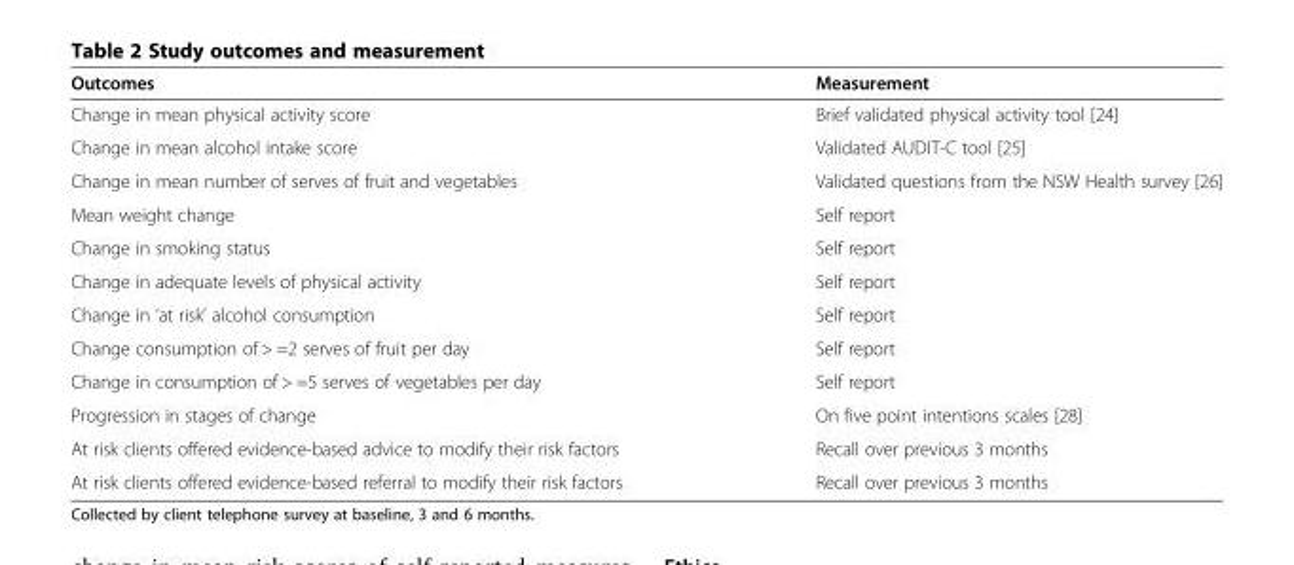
<table><thead><tr><td>Outcomes</td><td>Measurement</td></tr></thead><tbody><tr><td>Change in mean physical activity score</td><td>Brief validated physical activity tool [24]</td></tr><tr><td>Change in mean alcohol intake score</td><td>Validated AUDIT-C tool [25]</td></tr><tr><td>Change in mean number of serves of fruit and vegetables</td><td>Validated questions from the NSW Health survey [26]</td></tr><tr><td>Mean weight change</td><td>Self report</td></tr><tr><td>Change in smoking status</td><td>Self report</td></tr><tr><td>Change in adequate levels of physical activity</td><td>Self report</td></tr><tr><td>Change in ‘at risk’ alcohol consumption</td><td>Self report</td></tr><tr><td>Change consumption of &gt; =2 serves of fruit per day</td><td>Self report</td></tr><tr><td>Change in consumption of &gt; =5 serves of vegetables per day</td><td>Self report</td></tr><tr><td>Progression in stages of change</td><td>On five point intentions scales [28]</td></tr><tr><td>At risk clients offered evidence-based advice to modify their risk factors</td><td>Recall over previous 3 months</td></tr><tr><td>At risk clients offered evidence-based referral to modify their risk factors</td><td>Recall over previous 3 months</td></tr></tbody></table>